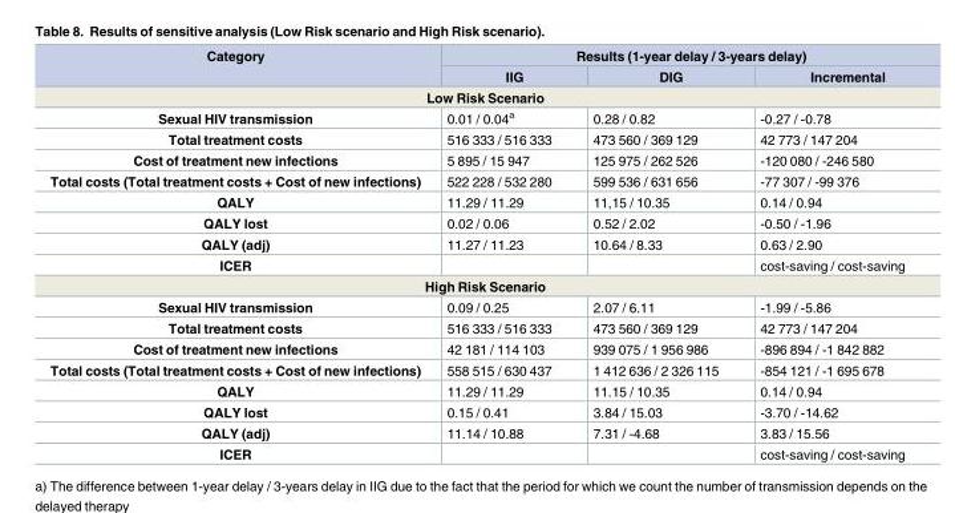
<table><thead><tr><td rowspan="2">Category</td><td colspan="3">Results (1-year delay / 3-years delay)</td></tr><tr><td>IIG</td><td>DIG</td><td>Incremental</td></tr></thead><tbody><tr><td colspan="4">Low Risk Scenario</td></tr><tr><td>Sexual HIV transmission</td><td>0.01 / 0.04<sup>a</sup></td><td>0.28 / 0.82</td><td>-0.27 / -0.78</td></tr><tr><td>Total treatment costs</td><td>516 333 / 516 333</td><td>473 560 / 369 129</td><td>42 773 / 147 204</td></tr><tr><td>Cost of treatment new infections</td><td>5 895 / 15 947</td><td>125 975 / 262 526</td><td>-120 080 / -246 580</td></tr><tr><td>Total costs (Total treatment costs + Cost of new infections)</td><td>522 228 / 532 280</td><td>599 536 / 631 656</td><td>-77 307 / -99 376</td></tr><tr><td>QALY</td><td>11.29 / 11.29</td><td>11,15 / 10.35</td><td>0.14 / 0.94</td></tr><tr><td>QALY lost</td><td>0.02 / 0.06</td><td>0.52 / 2.02</td><td>-0.50 / -1.96</td></tr><tr><td>QALY (adj)</td><td>11.27 / 11.23</td><td>10.64 / 8.33</td><td>0.63 / 2.90</td></tr><tr><td>ICER</td><td></td><td></td><td>cost-saving / cost-saving</td></tr><tr><td colspan="4">High Risk Scenario</td></tr><tr><td>Sexual HIV transmission</td><td>0.09 / 0.25</td><td>2.07 / 6.11</td><td>-1.99 / -5.86</td></tr><tr><td>Total treatment costs</td><td>516 333 / 516 333</td><td>473 560 / 369 129</td><td>42 773 / 147 204</td></tr><tr><td>Cost of treatment new infections</td><td>42 181 / 114 103</td><td>939 075 / 1 956 986</td><td>-896 894 / -1 842 882</td></tr><tr><td>Total costs (Total treatment costs + Cost of new infections)</td><td>558 515 / 630 437</td><td>1 412 636 / 2 326 115</td><td>-854 121 / -1 695 678</td></tr><tr><td>QALY</td><td>11.29 / 11.29</td><td>11.15 / 10.35</td><td>0.14 / 0.94</td></tr><tr><td>QALY lost</td><td>0.15 / 0.41</td><td>3.84 / 15.03</td><td>-3.70 / -14.62</td></tr><tr><td>QALY (adj)</td><td>11.14 / 10.88</td><td>7.31 / -4.68</td><td>3.83 / 15.56</td></tr><tr><td>ICER</td><td></td><td></td><td>cost-saving / cost-saving</td></tr></tbody></table>